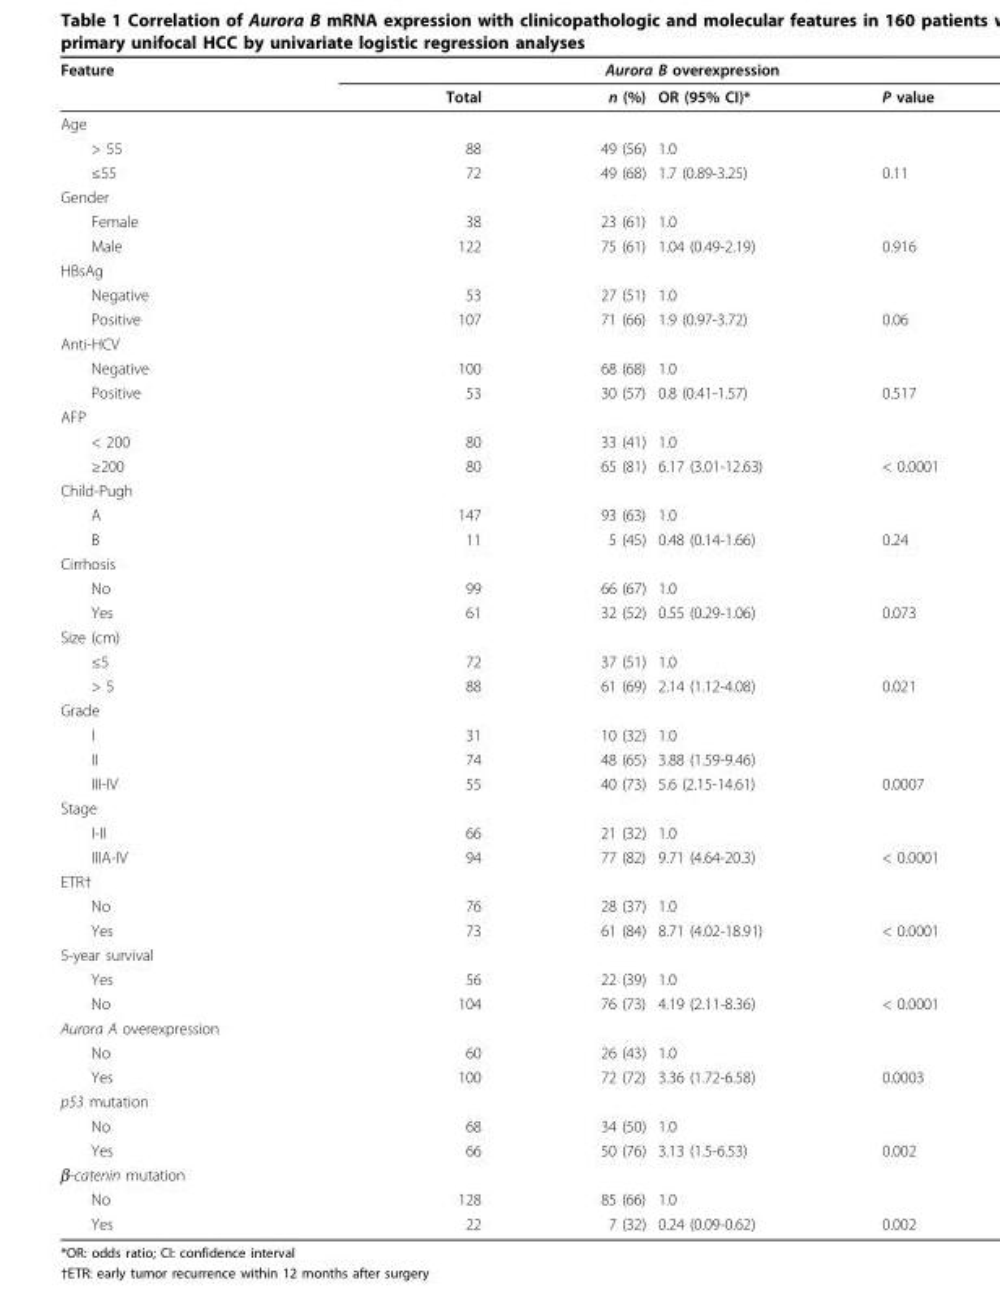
<table><thead><tr><td rowspan="2">Feature</td><td colspan="4">Aurora B overexpression</td></tr><tr><td>Total</td><td>n (%)</td><td>OR (95% CI)*</td><td>P value</td></tr></thead><tbody><tr><td colspan="5">Age</td></tr><tr><td>&gt; 55</td><td>88</td><td>49 (56)</td><td>1.0</td><td></td></tr><tr><td>≤55</td><td>72</td><td>49 (68)</td><td>1.7 (0.89-3.25)</td><td>0.11</td></tr><tr><td colspan="5">Gender</td></tr><tr><td>Female</td><td>38</td><td>23 (61)</td><td>1.0</td><td></td></tr><tr><td>Male</td><td>122</td><td>75 (61)</td><td>1.04 (0.49-2.19)</td><td>0.916</td></tr><tr><td colspan="5">HBsAg</td></tr><tr><td>Negative</td><td>53</td><td>27 (51)</td><td>1.0</td><td></td></tr><tr><td>Positive</td><td>107</td><td>71 (66)</td><td>1.9 (0.97-3.72)</td><td>0.06</td></tr><tr><td colspan="5">Anti-HCV</td></tr><tr><td>Negative</td><td>100</td><td>68 (68)</td><td>1.0</td><td></td></tr><tr><td>Positive</td><td>53</td><td>30 (57)</td><td>0.8 (0.41-1.57)</td><td>0.517</td></tr><tr><td colspan="5">AFP</td></tr><tr><td>&lt; 200</td><td>80</td><td>33 (41)</td><td>1.0</td><td></td></tr><tr><td>≥200</td><td>80</td><td>65 (81)</td><td>6.17 (3.01-12.63)</td><td>&lt; 0.0001</td></tr><tr><td colspan="5">Child-Pugh</td></tr><tr><td>A</td><td>147</td><td>93 (63)</td><td>1.0</td><td></td></tr><tr><td>B</td><td>11</td><td>5 (45)</td><td>0.48 (0.14-1.66)</td><td>0.24</td></tr><tr><td colspan="5">Cirrhosis</td></tr><tr><td>No</td><td>99</td><td>66 (67)</td><td>1.0</td><td></td></tr><tr><td>Yes</td><td>61</td><td>32 (52)</td><td>0.55 (0.29-1.06)</td><td>0.073</td></tr><tr><td colspan="5">Size (cm)</td></tr><tr><td>≤5</td><td>72</td><td>37 (51)</td><td>1.0</td><td></td></tr><tr><td>&gt; 5</td><td>88</td><td>61 (69)</td><td>2.14 (1.12-4.08)</td><td>0.021</td></tr><tr><td colspan="5">Grade</td></tr><tr><td>I</td><td>31</td><td>10 (32)</td><td>1.0</td><td></td></tr><tr><td>II</td><td>74</td><td>48 (65)</td><td>3.88 (1.59-9.46)</td><td></td></tr><tr><td>III-IV</td><td>55</td><td>40 (73)</td><td>5.6 (2.15-14.61)</td><td>0.0007</td></tr><tr><td colspan="5">Stage</td></tr><tr><td>I-II</td><td>66</td><td>21 (32)</td><td>1.0</td><td></td></tr><tr><td>IIIA-IV</td><td>94</td><td>77 (82)</td><td>9.71 (4.64-20.3)</td><td>&lt; 0.0001</td></tr><tr><td colspan="5">ETR†</td></tr><tr><td>No</td><td>76</td><td>28 (37)</td><td>1.0</td><td></td></tr><tr><td>Yes</td><td>73</td><td>61 (84)</td><td>8.71 (4.02-18.91)</td><td>&lt; 0.0001</td></tr><tr><td colspan="5">5-year survival</td></tr><tr><td>Yes</td><td>56</td><td>22 (39)</td><td>1.0</td><td></td></tr><tr><td>No</td><td>104</td><td>76 (73)</td><td>4.19 (2.11-8.36)</td><td>&lt; 0.0001</td></tr><tr><td colspan="5">Aurora A overexpression</td></tr><tr><td>No</td><td>60</td><td>26 (43)</td><td>1.0</td><td></td></tr><tr><td>Yes</td><td>100</td><td>72 (72)</td><td>3.36 (1.72-6.58)</td><td>0.0003</td></tr><tr><td colspan="5">p53 mutation</td></tr><tr><td>No</td><td>68</td><td>34 (50)</td><td>1.0</td><td></td></tr><tr><td>Yes</td><td>66</td><td>50 (76)</td><td>3.13 (1.5-6.53)</td><td>0.002</td></tr><tr><td colspan="5">β-catenin mutation</td></tr><tr><td>No</td><td>128</td><td>85 (66)</td><td>1.0</td><td></td></tr><tr><td>Yes</td><td>22</td><td>7 (32)</td><td>0.24 (0.09-0.62)</td><td>0.002</td></tr></tbody></table>